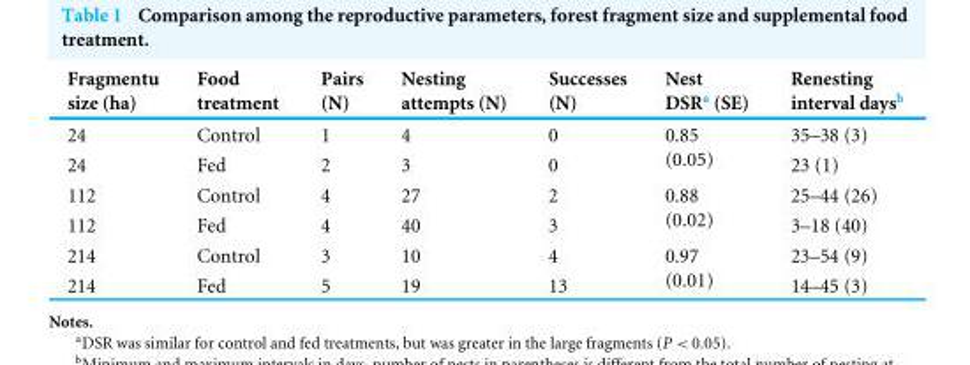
<table><thead><tr><td>Fragmentu size (ha)</td><td>Food treatment</td><td>Pairs (N)</td><td>Nesting attempts (N)</td><td>Successes (N)</td><td>Nest DSR<sup>a</sup> (SE)</td><td>Renesting interval days<sup>b</sup></td></tr></thead><tbody><tr><td>24</td><td>Control</td><td>1</td><td>4</td><td>0</td><td rowspan="2">0.85 (0.05)</td><td>35–38 (3)</td></tr><tr><td>24</td><td>Fed</td><td>2</td><td>3</td><td>0</td><td>23 (1)</td></tr><tr><td>112</td><td>Control</td><td>4</td><td>27</td><td>2</td><td rowspan="2">0.88 (0.02)</td><td>25–44 (26)</td></tr><tr><td>112</td><td>Fed</td><td>4</td><td>40</td><td>3</td><td>3–18 (40)</td></tr><tr><td>214</td><td>Control</td><td>3</td><td>10</td><td>4</td><td rowspan="2">0.97 (0.01)</td><td>23–54 (9)</td></tr><tr><td>214</td><td>Fed</td><td>5</td><td>19</td><td>13</td><td>14–45 (3)</td></tr></tbody></table>